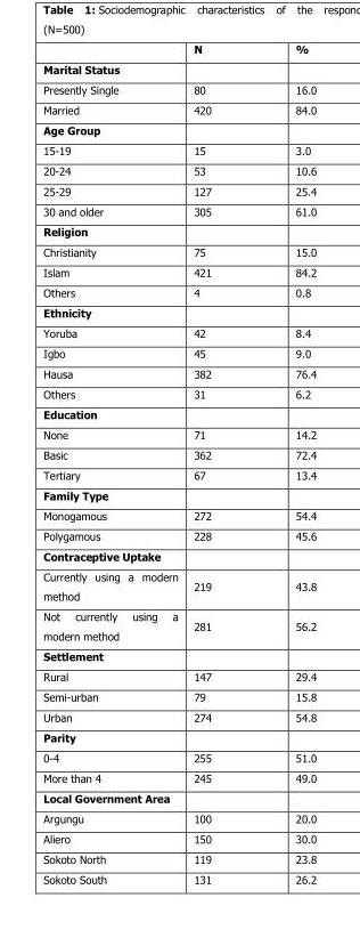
<table><thead><tr><td></td><td>N</td><td>%</td></tr></thead><tbody><tr><td colspan="3">Marital Status</td></tr><tr><td>Presently Single</td><td>80</td><td>16.0</td></tr><tr><td>Married</td><td>420</td><td>84.0</td></tr><tr><td colspan="3">Age Group</td></tr><tr><td>15-19</td><td>15</td><td>3.0</td></tr><tr><td>20-24</td><td>53</td><td>10.6</td></tr><tr><td>25-29</td><td>127</td><td>25.4</td></tr><tr><td>30 and older</td><td>305</td><td>61.0</td></tr><tr><td colspan="3">Religion</td></tr><tr><td>Christianity</td><td>75</td><td>15.0</td></tr><tr><td>Islam</td><td>421</td><td>84.2</td></tr><tr><td>Others</td><td>4</td><td>0.8</td></tr><tr><td colspan="3">Ethnicity</td></tr><tr><td>Yoruba</td><td>42</td><td>8.4</td></tr><tr><td>Igbo</td><td>45</td><td>9.0</td></tr><tr><td>Hausa</td><td>382</td><td>76.4</td></tr><tr><td>Others</td><td>31</td><td>6.2</td></tr><tr><td colspan="3">Education</td></tr><tr><td>None</td><td>71</td><td>14.2</td></tr><tr><td>Basic</td><td>362</td><td>72.4</td></tr><tr><td>Tertiary</td><td>67</td><td>13.4</td></tr><tr><td colspan="3">Family Type</td></tr><tr><td>Monogamous</td><td>272</td><td>54.4</td></tr><tr><td>Polygamous</td><td>228</td><td>45.6</td></tr><tr><td colspan="3">Contraceptive Uptake</td></tr><tr><td>Currently using a modern method</td><td>219</td><td>43.8</td></tr><tr><td>Not currently using a modern method</td><td>281</td><td>56.2</td></tr><tr><td colspan="3">Settlement</td></tr><tr><td>Rural</td><td>147</td><td>29.4</td></tr><tr><td>Semi-urban</td><td>79</td><td>15.8</td></tr><tr><td>Urban</td><td>274</td><td>54.8</td></tr><tr><td colspan="3">Parity</td></tr><tr><td>0-4</td><td>255</td><td>51.0</td></tr><tr><td>More than 4</td><td>245</td><td>49.0</td></tr><tr><td colspan="3">Local Government Area</td></tr><tr><td>Argungu</td><td>100</td><td>20.0</td></tr><tr><td>Aliero</td><td>150</td><td>30.0</td></tr><tr><td>Sokoto North</td><td>119</td><td>23.8</td></tr><tr><td>Sokoto South</td><td>131</td><td>26.2</td></tr></tbody></table>